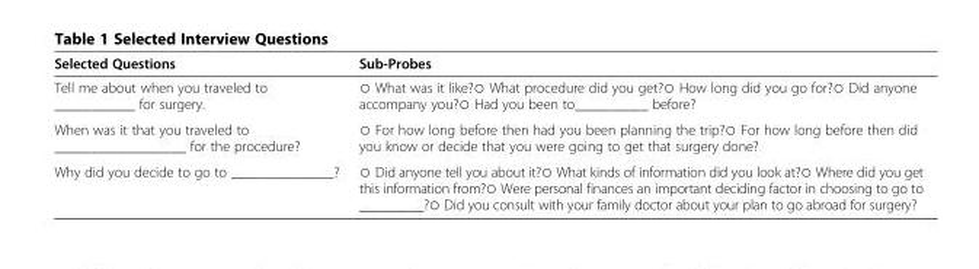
<table><thead><tr><td>Selected Questions</td><td>Sub-Probes</td></tr></thead><tbody><tr><td>Tell me about when you traveled to ___________ for surgery.</td><td>○ What was it like?○ What procedure did you get?○ How long did you go for?○ Did anyone accompany you?○ Had you been to__________ before?</td></tr><tr><td>When was it that you traveled to __________________ for the procedure?</td><td>○ For how long before then had you been planning the trip?○ For how long before then did you know or decide that you were going to get that surgery done?</td></tr><tr><td>Why did you decide to go to ______________?</td><td>○ Did anyone tell you about it?○ What kinds of information did you look at?○ Where did you get this information from?○ Were personal finances an important deciding factor in choosing to go to _________?○ Did you consult with your family doctor about your plan to go abroad for surgery?</td></tr></tbody></table>